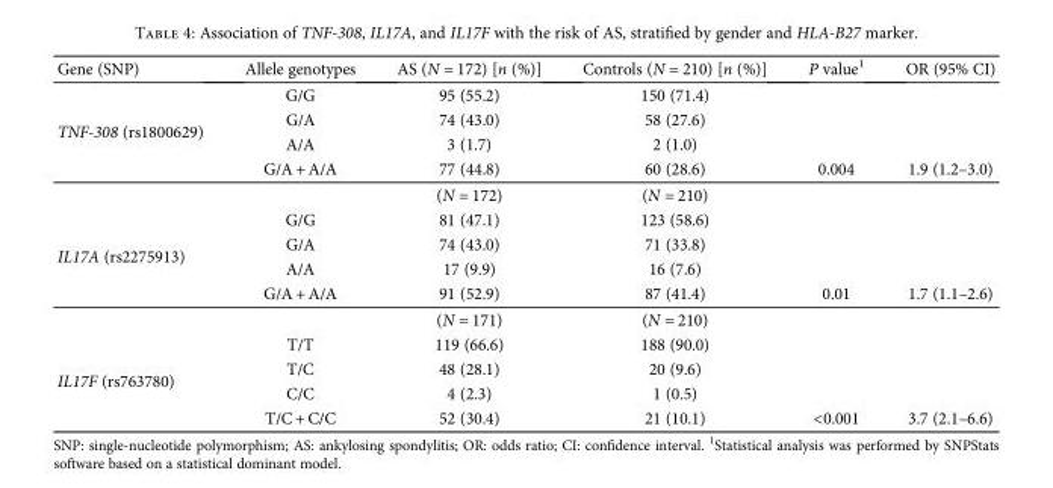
<table><thead><tr><td>Gene (SNP)</td><td>Allele genotypes</td><td>AS (N = 172) [n (%)]</td><td>Controls (N = 210) [n (%)]</td><td>P value<sup>1</sup></td><td>OR (95% CI)</td></tr></thead><tbody><tr><td rowspan="5">TNF-308 (rs1800629)</td><td>G/G</td><td>95 (55.2)</td><td>150 (71.4)</td><td rowspan="3"></td><td rowspan="3"></td></tr><tr><td>G/A</td><td>74 (43.0)</td><td>58 (27.6)</td></tr><tr><td>A/A</td><td>3 (1.7)</td><td>2 (1.0)</td></tr><tr><td>G/A + A/A</td><td>77 (44.8)</td><td>60 (28.6)</td><td>0.004</td><td>1.9 (1.2–3.0)</td></tr><tr><td></td><td>(N = 172)</td><td>(N = 210)</td><td></td><td></td></tr><tr><td rowspan="5">IL17A (rs2275913)</td><td>G/G</td><td>81 (47.1)</td><td>123 (58.6)</td><td rowspan="3"></td><td rowspan="3"></td></tr><tr><td>G/A</td><td>74 (43.0)</td><td>71 (33.8)</td></tr><tr><td>A/A</td><td>17 (9.9)</td><td>16 (7.6)</td></tr><tr><td>G/A + A/A</td><td>91 (52.9)</td><td>87 (41.4)</td><td>0.01</td><td>1.7 (1.1–2.6)</td></tr><tr><td></td><td>(N = 171)</td><td>(N = 210)</td><td></td><td></td></tr><tr><td rowspan="4">IL17F (rs763780)</td><td>T/T</td><td>119 (66.6)</td><td>188 (90.0)</td><td rowspan="3"></td><td rowspan="3"></td></tr><tr><td>T/C</td><td>48 (28.1)</td><td>20 (9.6)</td></tr><tr><td>C/C</td><td>4 (2.3)</td><td>1 (0.5)</td></tr><tr><td>T/C + C/C</td><td>52 (30.4)</td><td>21 (10.1)</td><td>&lt;0.001</td><td>3.7 (2.1–6.6)</td></tr></tbody></table>